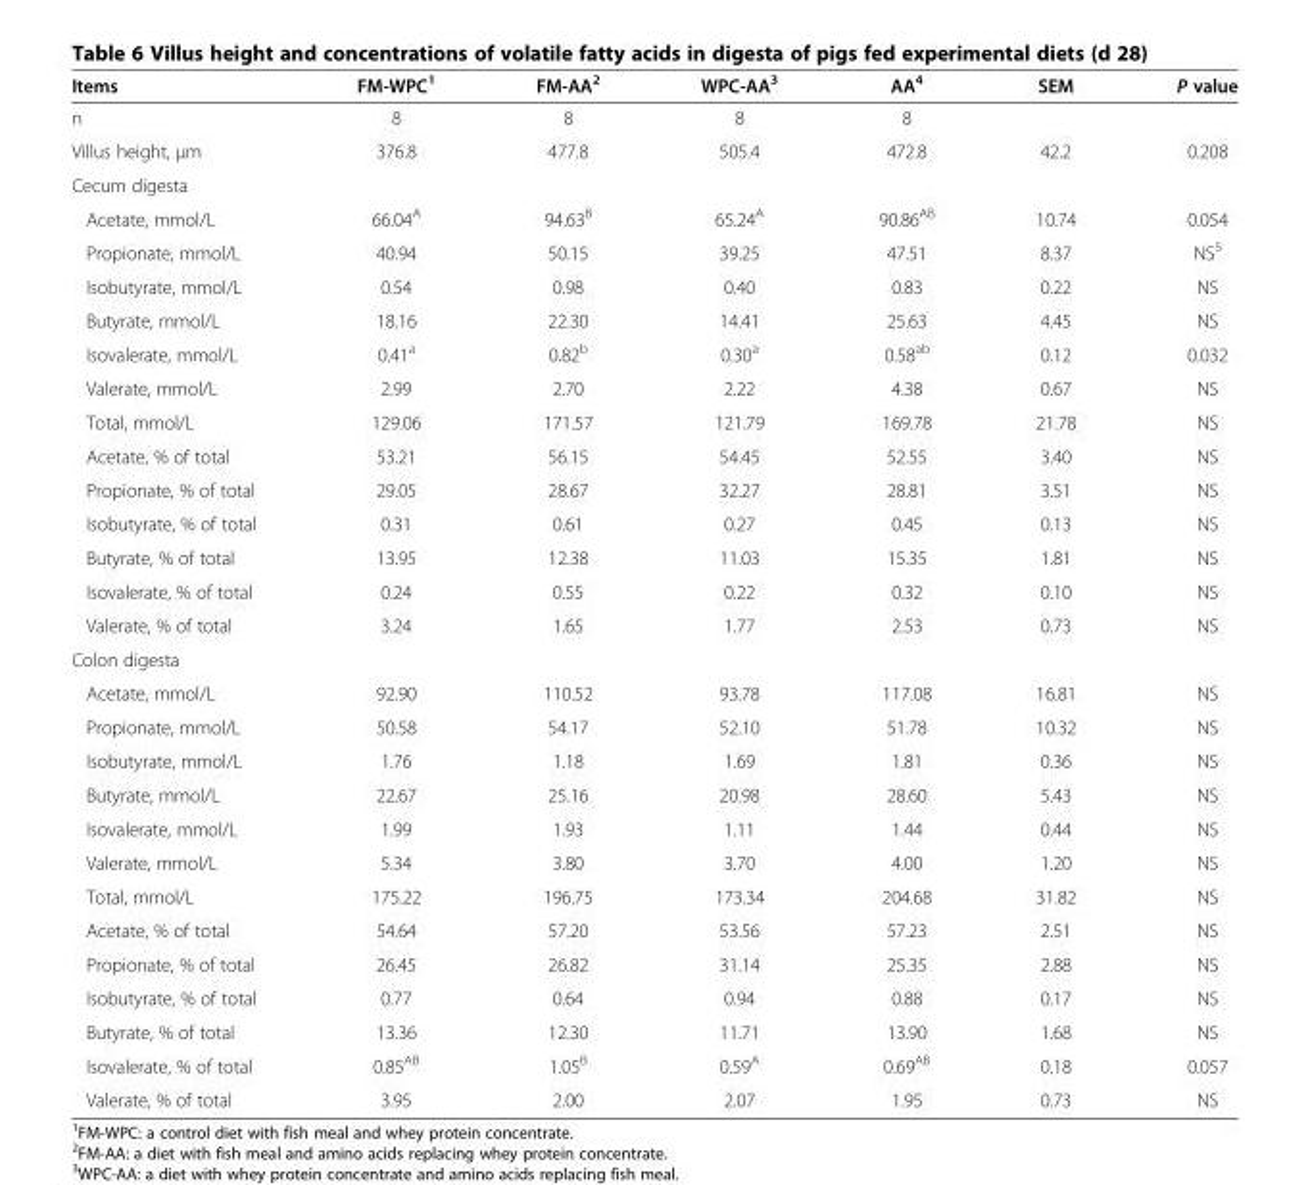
<table><thead><tr><td>Items</td><td>FM-WPC<sup>1</sup></td><td>FM-AA<sup>2</sup></td><td>WPC-AA<sup>3</sup></td><td>AA<sup>4</sup></td><td>SEM</td><td>P value</td></tr></thead><tbody><tr><td>n</td><td>8</td><td>8</td><td>8</td><td>8</td><td></td><td></td></tr><tr><td>Villus height, μm</td><td>376.8</td><td>477.8</td><td>505.4</td><td>472.8</td><td>42.2</td><td>0.208</td></tr><tr><td colspan="7">Cecum digesta</td></tr><tr><td>Acetate, mmol/L</td><td>66.04<sup>A</sup></td><td>94.63<sup>B</sup></td><td>65.24<sup>A</sup></td><td>90.86<sup>AB</sup></td><td>10.74</td><td>0.054</td></tr><tr><td>Propionate, mmol/L</td><td>40.94</td><td>50.15</td><td>39.25</td><td>47.51</td><td>8.37</td><td>NS<sup>5</sup></td></tr><tr><td>Isobutyrate, mmol/L</td><td>0.54</td><td>0.98</td><td>0.40</td><td>0.83</td><td>0.22</td><td>NS</td></tr><tr><td>Butyrate, mmol/L</td><td>18.16</td><td>22.30</td><td>14.41</td><td>25.63</td><td>4.45</td><td>NS</td></tr><tr><td>Isovalerate, mmol/L</td><td>0.41<sup>a</sup></td><td>0.82<sup>b</sup></td><td>0.30<sup>a</sup></td><td>0.58<sup>ab</sup></td><td>0.12</td><td>0.032</td></tr><tr><td>Valerate, mmol/L</td><td>2.99</td><td>2.70</td><td>2.22</td><td>4.38</td><td>0.67</td><td>NS</td></tr><tr><td>Total, mmol/L</td><td>129.06</td><td>171.57</td><td>121.79</td><td>169.78</td><td>21.78</td><td>NS</td></tr><tr><td>Acetate, % of total</td><td>53.21</td><td>56.15</td><td>54.45</td><td>52.55</td><td>3.40</td><td>NS</td></tr><tr><td>Propionate, % of total</td><td>29.05</td><td>28.67</td><td>32.27</td><td>28.81</td><td>3.51</td><td>NS</td></tr><tr><td>Isobutyrate, % of total</td><td>0.31</td><td>0.61</td><td>0.27</td><td>0.45</td><td>0.13</td><td>NS</td></tr><tr><td>Butyrate, % of total</td><td>13.95</td><td>12.38</td><td>11.03</td><td>15.35</td><td>1.81</td><td>NS</td></tr><tr><td>Isovalerate, % of total</td><td>0.24</td><td>0.55</td><td>0.22</td><td>0.32</td><td>0.10</td><td>NS</td></tr><tr><td>Valerate, % of total</td><td>3.24</td><td>1.65</td><td>1.77</td><td>2.53</td><td>0.73</td><td>NS</td></tr><tr><td colspan="7">Colon digesta</td></tr><tr><td>Acetate, mmol/L</td><td>92.90</td><td>110.52</td><td>93.78</td><td>117.08</td><td>16.81</td><td>NS</td></tr><tr><td>Propionate, mmol/L</td><td>50.58</td><td>54.17</td><td>52.10</td><td>51.78</td><td>10.32</td><td>NS</td></tr><tr><td>Isobutyrate, mmol/L</td><td>1.76</td><td>1.18</td><td>1.69</td><td>1.81</td><td>0.36</td><td>NS</td></tr><tr><td>Butyrate, mmol/L</td><td>22.67</td><td>25.16</td><td>20.98</td><td>28.60</td><td>5.43</td><td>NS</td></tr><tr><td>Isovalerate, mmol/L</td><td>1.99</td><td>1.93</td><td>1.11</td><td>1.44</td><td>0.44</td><td>NS</td></tr><tr><td>Valerate, mmol/L</td><td>5.34</td><td>3.80</td><td>3.70</td><td>4.00</td><td>1.20</td><td>NS</td></tr><tr><td>Total, mmol/L</td><td>175.22</td><td>196.75</td><td>173.34</td><td>204.68</td><td>31.82</td><td>NS</td></tr><tr><td>Acetate, % of total</td><td>54.64</td><td>57.20</td><td>53.56</td><td>57.23</td><td>2.51</td><td>NS</td></tr><tr><td>Propionate, % of total</td><td>26.45</td><td>26.82</td><td>31.14</td><td>25.35</td><td>2.88</td><td>NS</td></tr><tr><td>Isobutyrate, % of total</td><td>0.77</td><td>0.64</td><td>0.94</td><td>0.88</td><td>0.17</td><td>NS</td></tr><tr><td>Butyrate, % of total</td><td>13.36</td><td>12.30</td><td>11.71</td><td>13.90</td><td>1.68</td><td>NS</td></tr><tr><td>Isovalerate, % of total</td><td>0.85<sup>AB</sup></td><td>1.05<sup>B</sup></td><td>0.59<sup>A</sup></td><td>0.69<sup>AB</sup></td><td>0.18</td><td>0.057</td></tr><tr><td>Valerate, % of total</td><td>3.95</td><td>2.00</td><td>2.07</td><td>1.95</td><td>0.73</td><td>NS</td></tr></tbody></table>